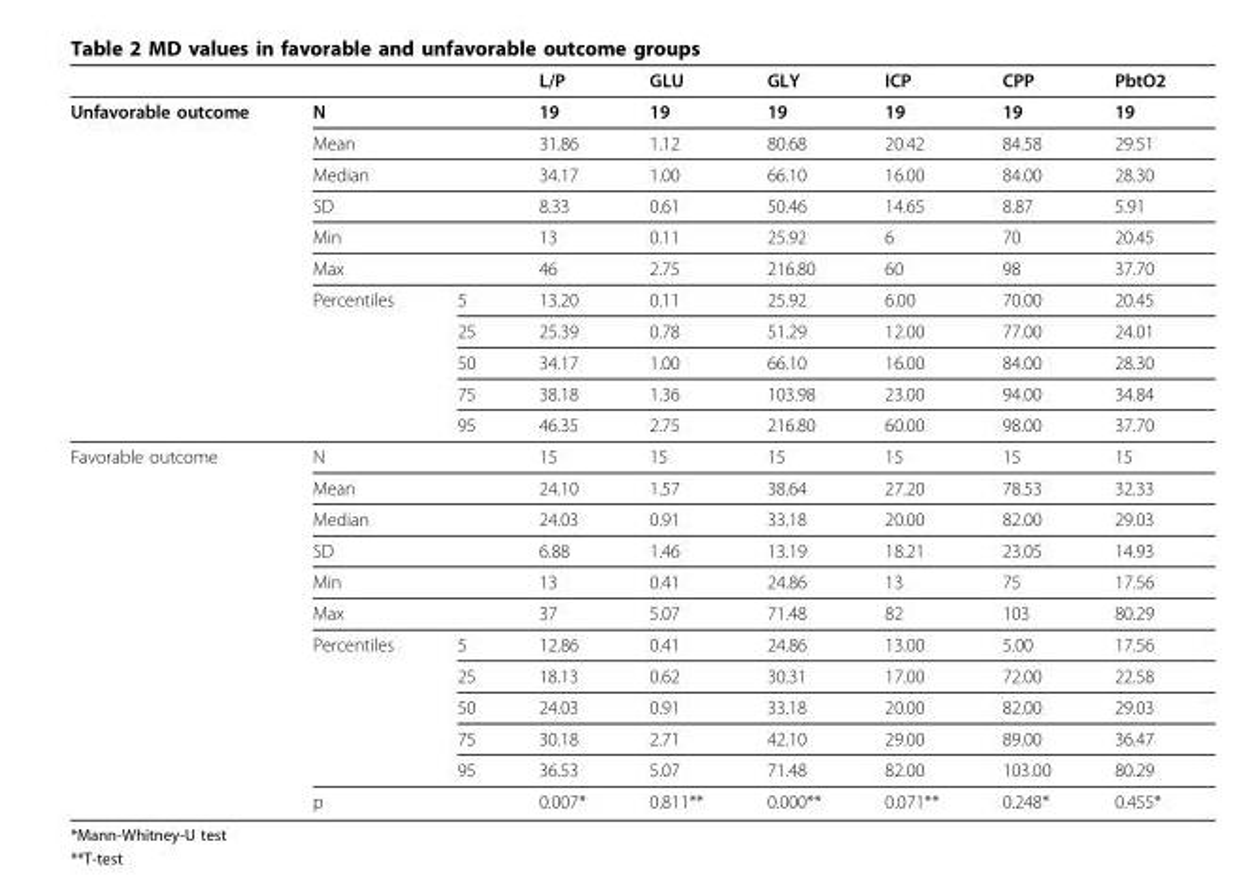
<table><thead><tr><td></td><td></td><td></td><td>L/P</td><td>GLU</td><td>GLY</td><td>ICP</td><td>CPP</td><td>PbtO2</td></tr></thead><tbody><tr><td rowspan="11">Unfavorable outcome</td><td colspan="2">N</td><td>19</td><td>19</td><td>19</td><td>19</td><td>19</td><td>19</td></tr><tr><td colspan="2">Mean</td><td>31.86</td><td>1.12</td><td>80.68</td><td>20.42</td><td>84.58</td><td>29.51</td></tr><tr><td colspan="2">Median</td><td>34.17</td><td>1.00</td><td>66.10</td><td>16.00</td><td>84.00</td><td>28.30</td></tr><tr><td colspan="2">SD</td><td>8.33</td><td>0.61</td><td>50.46</td><td>14.65</td><td>8.87</td><td>5.91</td></tr><tr><td colspan="2">Min</td><td>13</td><td>0.11</td><td>25.92</td><td>6</td><td>70</td><td>20.45</td></tr><tr><td colspan="2">Max</td><td>46</td><td>2.75</td><td>216.80</td><td>60</td><td>98</td><td>37.70</td></tr><tr><td>Percentiles</td><td>5</td><td>13.20</td><td>0.11</td><td>25.92</td><td>6.00</td><td>70.00</td><td>20.45</td></tr><tr><td></td><td>25</td><td>25.39</td><td>0.78</td><td>51.29</td><td>12.00</td><td>77.00</td><td>24.01</td></tr><tr><td></td><td>50</td><td>34.17</td><td>1.00</td><td>66.10</td><td>16.00</td><td>84.00</td><td>28.30</td></tr><tr><td></td><td>75</td><td>38.18</td><td>1.36</td><td>103.98</td><td>23.00</td><td>94.00</td><td>34.84</td></tr><tr><td></td><td>95</td><td>46.35</td><td>2.75</td><td>216.80</td><td>60.00</td><td>98.00</td><td>37.70</td></tr><tr><td rowspan="12">Favorable outcome</td><td colspan="2">N</td><td>15</td><td>15</td><td>15</td><td>15</td><td>15</td><td>15</td></tr><tr><td colspan="2">Mean</td><td>24.10</td><td>1.57</td><td>38.64</td><td>27.20</td><td>78.53</td><td>32.33</td></tr><tr><td colspan="2">Median</td><td>24.03</td><td>0.91</td><td>33.18</td><td>20.00</td><td>82.00</td><td>29.03</td></tr><tr><td colspan="2">SD</td><td>6.88</td><td>1.46</td><td>13.19</td><td>18.21</td><td>23.05</td><td>14.93</td></tr><tr><td colspan="2">Min</td><td>13</td><td>0.41</td><td>24.86</td><td>13</td><td>75</td><td>17.56</td></tr><tr><td colspan="2">Max</td><td>37</td><td>5.07</td><td>71.48</td><td>82</td><td>103</td><td>80.29</td></tr><tr><td>Percentiles</td><td>5</td><td>12.86</td><td>0.41</td><td>24.86</td><td>13.00</td><td>5.00</td><td>17.56</td></tr><tr><td></td><td>25</td><td>18.13</td><td>0.62</td><td>30.31</td><td>17.00</td><td>72.00</td><td>22.58</td></tr><tr><td></td><td>50</td><td>24.03</td><td>0.91</td><td>33.18</td><td>20.00</td><td>82.00</td><td>29.03</td></tr><tr><td></td><td>75</td><td>30.18</td><td>2.71</td><td>42.10</td><td>29.00</td><td>89.00</td><td>36.47</td></tr><tr><td></td><td>95</td><td>36.53</td><td>5.07</td><td>71.48</td><td>82.00</td><td>103.00</td><td>80.29</td></tr><tr><td colspan="2">p</td><td>0.007*</td><td>0.811**</td><td>0.000**</td><td>0.071**</td><td>0.248*</td><td>0.455*</td></tr></tbody></table>